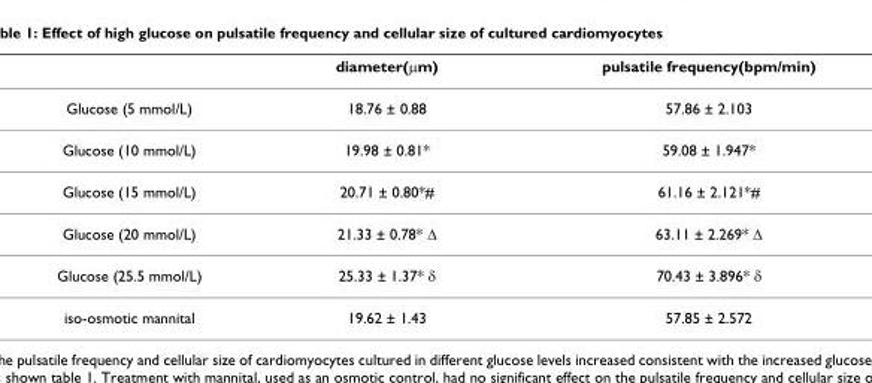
<table><thead><tr><td></td><td>diameter(μm)</td><td>pulsatile frequency(bpm/min)</td></tr></thead><tbody><tr><td>Glucose (5 mmol/L)</td><td>18.76 ± 0.88</td><td>57.86 ± 2.103</td></tr><tr><td>Glucose (10 mmol/L)</td><td>19.98 ± 0.81*</td><td>59.08 ± 1.947*</td></tr><tr><td>Glucose (15 mmol/L)</td><td>20.71 ± 0.80*#</td><td>61.16 ± 2.121*#</td></tr><tr><td>Glucose (20 mmol/L)</td><td>21.33 ± 0.78* Δ</td><td>63.11 ± 2.269* Δ</td></tr><tr><td>Glucose (25.5 mmol/L)</td><td>25.33 ± 1.37* δ</td><td>70.43 ± 3.896* δ</td></tr><tr><td>iso-osmotic mannital</td><td>19.62 ± 1.43</td><td>57.85 ± 2.572</td></tr></tbody></table>